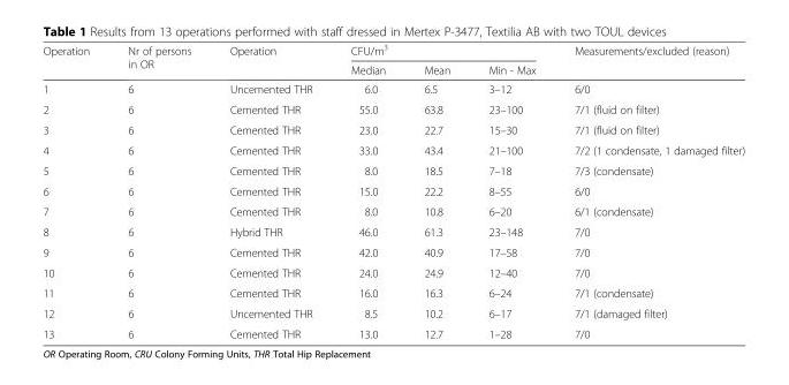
<table><thead><tr><td rowspan="2">Operation</td><td rowspan="2">Nr of persons in OR</td><td rowspan="2">Operation</td><td colspan="3">CFU/m<sup>3</sup></td><td rowspan="2">Measurements/excluded (reason)</td></tr><tr><td>Median</td><td>Mean</td><td>Min - Max</td></tr></thead><tbody><tr><td>1</td><td>6</td><td>Uncemented THR</td><td>6.0</td><td>6.5</td><td>3–12</td><td>6/0</td></tr><tr><td>2</td><td>6</td><td>Cemented THR</td><td>55.0</td><td>63.8</td><td>23–100</td><td>7/1 (fluid on filter)</td></tr><tr><td>3</td><td>6</td><td>Cemented THR</td><td>23.0</td><td>22.7</td><td>15–30</td><td>7/1 (fluid on filter)</td></tr><tr><td>4</td><td>6</td><td>Cemented THR</td><td>33.0</td><td>43.4</td><td>21–100</td><td>7/2 (1 condensate, 1 damaged filter)</td></tr><tr><td>5</td><td>6</td><td>Cemented THR</td><td>8.0</td><td>18.5</td><td>7–18</td><td>7/3 (condensate)</td></tr><tr><td>6</td><td>6</td><td>Cemented THR</td><td>15.0</td><td>22.2</td><td>8–55</td><td>6/0</td></tr><tr><td>7</td><td>6</td><td>Cemented THR</td><td>8.0</td><td>10.8</td><td>6–20</td><td>6/1 (condensate)</td></tr><tr><td>8</td><td>6</td><td>Hybrid THR</td><td>46.0</td><td>61.3</td><td>23–148</td><td>7/0</td></tr><tr><td>9</td><td>6</td><td>Cemented THR</td><td>42.0</td><td>40.9</td><td>17–58</td><td>7/0</td></tr><tr><td>10</td><td>6</td><td>Cemented THR</td><td>24.0</td><td>24.9</td><td>12–40</td><td>7/0</td></tr><tr><td>11</td><td>6</td><td>Cemented THR</td><td>16.0</td><td>16.3</td><td>6–24</td><td>7/1 (condensate)</td></tr><tr><td>12</td><td>6</td><td>Uncemented THR</td><td>8.5</td><td>10.2</td><td>6–17</td><td>7/1 (damaged filter)</td></tr><tr><td>13</td><td>6</td><td>Cemented THR</td><td>13.0</td><td>12.7</td><td>1–28</td><td>7/0</td></tr></tbody></table>